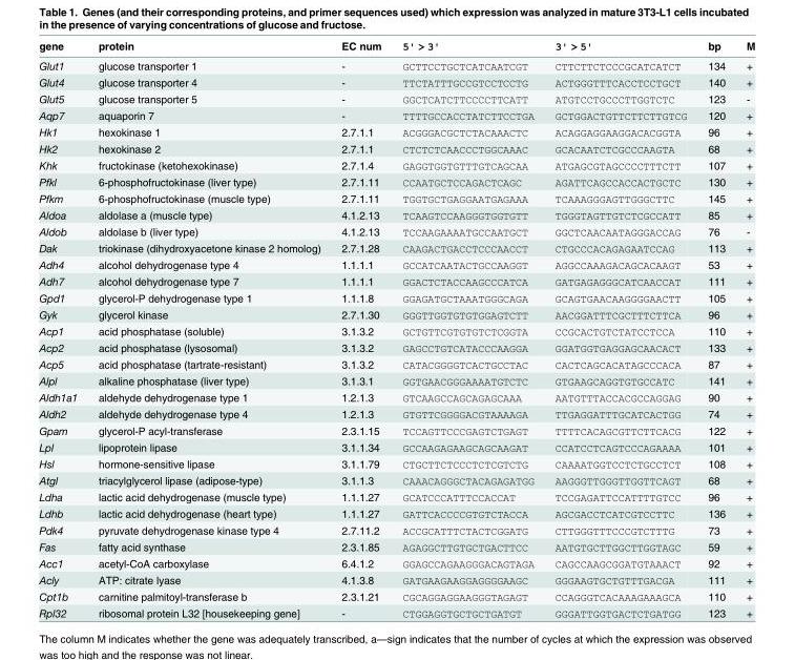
<table><thead><tr><td>gene</td><td>protein</td><td>EC num</td><td>5&#x27; &gt; 3&#x27;</td><td>3&#x27; &gt; 5&#x27;</td><td>bp</td><td>M</td></tr></thead><tbody><tr><td>Glut1</td><td>glucose transporter 1</td><td>-</td><td>GCTTCCTGCTCATCAATCGT</td><td>CTTCTTCTCCCGCATCATCT</td><td>134</td><td>+</td></tr><tr><td>Glut4</td><td>glucose transporter 4</td><td>-</td><td>TTCTATTTGCCGTCCTCCTG</td><td>ACTGGGTTTCACCTCCTGCT</td><td>140</td><td>+</td></tr><tr><td>Glut5</td><td>glucose transporter 5</td><td>-</td><td>GGCTCATCTTCCCCTTCATT</td><td>ATGTCCTGCCCTTGGTCTC</td><td>123</td><td>-</td></tr><tr><td>Aqp7</td><td>aquaporin 7</td><td>-</td><td>TTTTGCCACCTATCTTCCTGA</td><td>GCTGGACTGTTCTTCTTGTCG</td><td>120</td><td>+</td></tr><tr><td>Hk1</td><td>hexokinase 1</td><td>2.7.1.1</td><td>ACGGGACGCTCTACAAACTC</td><td>ACAGGAGGAAGGACACGGTA</td><td>96</td><td>+</td></tr><tr><td>Hk2</td><td>hexokinase 2</td><td>2.7.1.1</td><td>CTCTCTCAACCCTGGCAAAC</td><td>GCACAATCTCGCCCAAGTA</td><td>68</td><td>+</td></tr><tr><td>Khk</td><td>fructokinase (ketohexokinase)</td><td>2.7.1.4</td><td>GAGGTGGTGTTTGTCAGCAA</td><td>ATGAGCGTAGCCCCTTTCTT</td><td>107</td><td>+</td></tr><tr><td>Pfkl</td><td>6-phosphofructokinase (liver type)</td><td>2.7.1.11</td><td>CCAATGCTCCAGACTCAGC</td><td>AGATTCAGCCACCACTGCTC</td><td>130</td><td>+</td></tr><tr><td>Pfkm</td><td>6-phosphofructokinase (muscle type)</td><td>2.7.1.11</td><td>TGGTGCTGAGGAATGAGAAA</td><td>TCAAAGGGAGTTGGGCTTC</td><td>145</td><td>+</td></tr><tr><td>Aldoa</td><td>aldolase a (muscle type)</td><td>4.1.2.13</td><td>TCAAGTCCAAGGGTGGTGTT</td><td>TGGGTAGTTGTCTCGCCATT</td><td>85</td><td>+</td></tr><tr><td>Aldob</td><td>aldolase b (liver type)</td><td>4.1.2.13</td><td>TCCAAGAAAATGCCAATGCT</td><td>GGCTCAACAATAGGGACCAG</td><td>76</td><td>-</td></tr><tr><td>Dak</td><td>triokinase (dihydroxyacetone kinase 2 homolog)</td><td>2.7.1.28</td><td>CAAGACTGACCTCCCAACCT</td><td>CTGCCCACAGAGAATCCAG</td><td>113</td><td>+</td></tr><tr><td>Adh4</td><td>alcohol dehydrogenase type 4</td><td>1.1.1.1</td><td>GCCATCAATACTGCCAAGGT</td><td>AGGCCAAAGACAGCACAAGT</td><td>53</td><td>+</td></tr><tr><td>Adh7</td><td>alcohol dehydrogenase type 7</td><td>1.1.1.1</td><td>GGACTCTACCAAGCCCATCA</td><td>GATGAGAGGGCATCAACCAT</td><td>111</td><td>+</td></tr><tr><td>Gpd1</td><td>glycerol-P dehydrogenase type 1</td><td>1.1.1.8</td><td>GGAGATGCTAAATGGGCAGA</td><td>GCAGTGAACAAGGGGAACTT</td><td>105</td><td>+</td></tr><tr><td>Gyk</td><td>glycerol kinase</td><td>2.7.1.30</td><td>GGGTTGGTGTGTGGAGTCTT</td><td>AACGGATTTCGCTTTCTTCA</td><td>96</td><td>+</td></tr><tr><td>Acp1</td><td>acid phosphatase (soluble)</td><td>3.1.3.2</td><td>GCTGTTCGTGTGTCTCGGTA</td><td>CCGCACTGTCTATCCTCCA</td><td>110</td><td>+</td></tr><tr><td>Acp2</td><td>acid phosphatase (lysosomal)</td><td>3.1.3.2</td><td>GAGCCTGTCATACCCAAGGA</td><td>GGATGGTGAGGAGCAACACT</td><td>133</td><td>+</td></tr><tr><td>Acp5</td><td>acid phosphatase (tartrate-resistant)</td><td>3.1.3.2</td><td>CATACGGGGTCACTGCCTAC</td><td>CACTCAGCACATAGCCCACA</td><td>87</td><td>+</td></tr><tr><td>Alpl</td><td>alkaline phosphatase (liver type)</td><td>3.1.3.1</td><td>GGTGAACGGGAAAATGTCTC</td><td>GTGAAGCAGGTGTGCCATC</td><td>141</td><td>+</td></tr><tr><td>Aldh1a1</td><td>aldehyde dehydrogenase type 1</td><td>1.2.1.3</td><td>GTCAAGCCAGCAGAGCAAA</td><td>AATGTTTACCACGCCAGGAG</td><td>90</td><td>+</td></tr><tr><td>Aldh2</td><td>aldehyde dehydrogenase type 4</td><td>1.2.1.3</td><td>GTGTTCGGGGACGTAAAAGA</td><td>TTGAGGATTTGCATCACTGG</td><td>74</td><td>+</td></tr><tr><td>Gpam</td><td>glycerol-P acyl-transferase</td><td>2.3.1.15</td><td>TCCAGTTCCCGAGTCTGAGT</td><td>TTTTCACAGCGTTCTTCACG</td><td>122</td><td>+</td></tr><tr><td>Lpl</td><td>lipoprotein lipase</td><td>3.1.1.34</td><td>GCCAAGAGAAGCAGCAAGAT</td><td>CCATCCTCAGTCCCAGAAAA</td><td>101</td><td>+</td></tr><tr><td>Hsl</td><td>hormone-sensitive lipase</td><td>3.1.1.79</td><td>CTGCTTCTCCCTCTCGTCTG</td><td>CAAAATGGTCCTCTGCCTCT</td><td>108</td><td>+</td></tr><tr><td>Atgl</td><td>triacylglycerol lipase (adipose-type)</td><td>3.1.1.3</td><td>CAAACAGGGCTACAGAGATGG</td><td>AAGGGTTGGGTTGGTTCAGT</td><td>68</td><td>+</td></tr><tr><td>Ldha</td><td>lactic acid dehydrogenase (muscle type)</td><td>1.1.1.27</td><td>GCATCCCATTTCCACCAT</td><td>TCCGAGATTCCATTTTGTCC</td><td>96</td><td>+</td></tr><tr><td>Ldhb</td><td>lactic acid dehydrogenase (heart type)</td><td>1.1.1.27</td><td>GATTCACCCCGTGTCTACCA</td><td>AGCGACCTCATCGTCCTTC</td><td>136</td><td>+</td></tr><tr><td>Pdk4</td><td>pyruvate dehydrogenase kinase type 4</td><td>2.7.11.2</td><td>ACCGCATTTCTACTCGGATG</td><td>CTTGGGTTTCCCGTCTTTG</td><td>73</td><td>+</td></tr><tr><td>Fas</td><td>fatty acid synthase</td><td>2.3.1.85</td><td>AGAGGCTTGTGCTGACTTCC</td><td>AATGTGCTTGGCTTGGTAGC</td><td>59</td><td>+</td></tr><tr><td>Acc1</td><td>acetyl-CoA carboxylase</td><td>6.4.1.2</td><td>GGAGCCAGAAGGGACAGTAGA</td><td>CAGCCAAGCGGATGTAAACT</td><td>92</td><td>+</td></tr><tr><td>Acly</td><td>ATP: citrate lyase</td><td>4.1.3.8</td><td>GATGAAGAAGGAGGGGAAGC</td><td>GGGAAGTGCTGTTTGACGA</td><td>111</td><td>+</td></tr><tr><td>Cpt1b</td><td>carnitine palmitoyl-transferase b</td><td>2.3.1.21</td><td>CGCAGGAGGAAGGGTAGAGT</td><td>CCAGGGTCACAAAGAAAGCA</td><td>110</td><td>+</td></tr><tr><td>Rpl32</td><td>ribosomal protein L32 [housekeeping gene]</td><td>-</td><td>CTGGAGGTGCTGCTGATGT</td><td>GGGATTGGTGACTCTGATGG</td><td>123</td><td>+</td></tr></tbody></table>